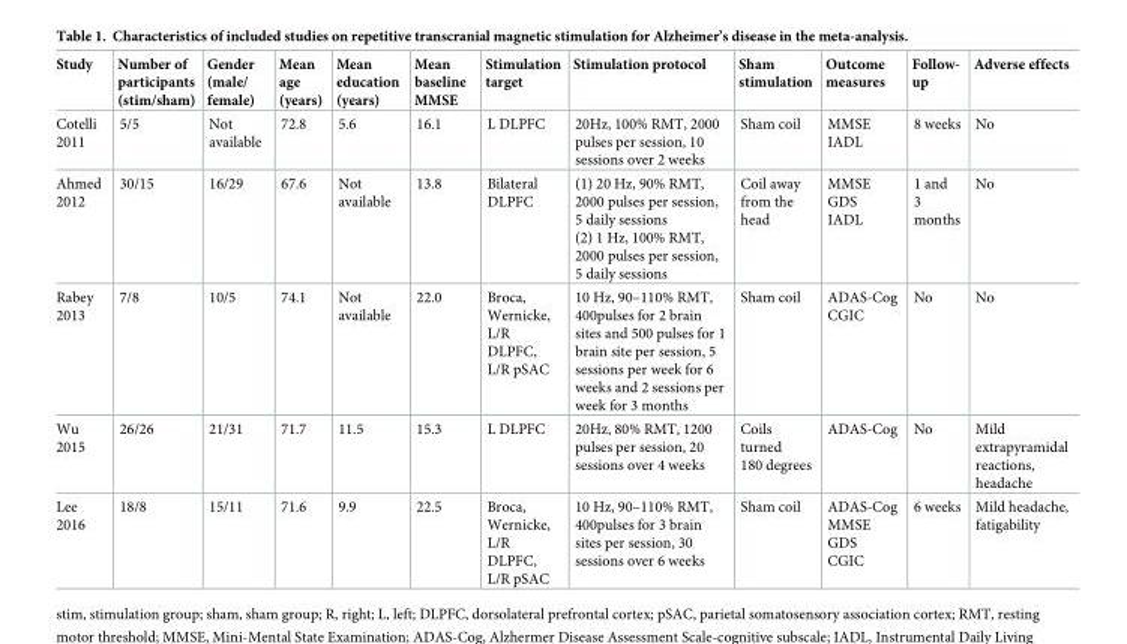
<table><thead><tr><td>Study</td><td>Number of participants (stim/sham)</td><td>Gender (male/ female)</td><td>Mean age (years)</td><td>Mean education (years)</td><td>Mean baseline MMSE</td><td>Stimulation target</td><td>Stimulation protocol</td><td>Sham stimulation</td><td>Outcome measures</td><td>Follow- up</td><td>Adverse effects</td></tr></thead><tbody><tr><td>Cotelli 2011</td><td>5/5</td><td>Not available</td><td>72.8</td><td>5.6</td><td>16.1</td><td>L DLPFC</td><td>20Hz, 100% RMT, 2000 pulses per session, 10 sessions over 2 weeks</td><td>Sham coil</td><td>MMSE IADL</td><td>8 weeks</td><td>No</td></tr><tr><td>Ahmed 2012</td><td>30/15</td><td>16/29</td><td>67.6</td><td>Not available</td><td>13.8</td><td>Bilateral DLPFC</td><td>(1) 20 Hz, 90% RMT, 2000 pulses per session, 5 daily sessions (2) 1 Hz, 100% RMT, 2000 pulses per session, 5 daily sessions</td><td>Coil away from the head</td><td>MMSE GDS IADL</td><td>1 and 3 months</td><td>No</td></tr><tr><td>Rabey 2013</td><td>7/8</td><td>10/5</td><td>74.1</td><td>Not available</td><td>22.0</td><td>Broca, Wernicke, L/R DLPFC, L/R pSAC</td><td>10 Hz, 90–110% RMT, 400pulses for 2 brain sites and 500 pulses for 1 brain site per session, 5 sessions per week for 6 weeks and 2 sessions per week for 3 months</td><td>Sham coil</td><td>ADAS-Cog CGIC</td><td>No</td><td>No</td></tr><tr><td>Wu 2015</td><td>26/26</td><td>21/31</td><td>71.7</td><td>11.5</td><td>15.3</td><td>L DLPFC</td><td>20Hz, 80% RMT, 1200 pulses per session, 20 sessions over 4 weeks</td><td>Coils turned 180 degrees</td><td>ADAS-Cog</td><td>No</td><td>Mild extrapyramidal reactions, headache</td></tr><tr><td>Lee 2016</td><td>18/8</td><td>15/11</td><td>71.6</td><td>9.9</td><td>22.5</td><td>Broca, Wernicke, L/R DLPFC, L/R pSAC</td><td>10 Hz, 90–110% RMT, 400pulses for 3 brain sites per session, 30 sessions over 6 weeks</td><td>Sham coil</td><td>ADAS-Cog MMSE GDS CGIC</td><td>6 weeks</td><td>Mild headache, fatigability</td></tr></tbody></table>